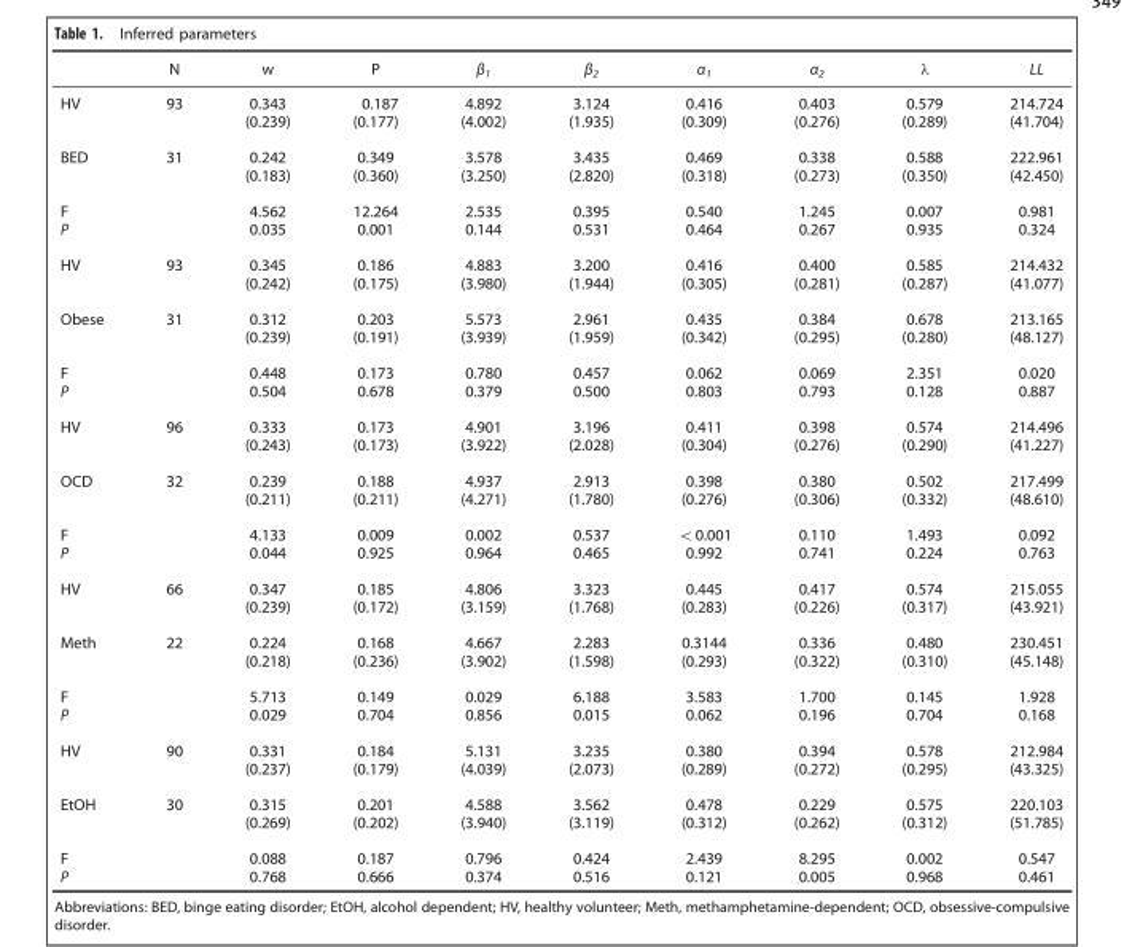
<table><thead><tr><td></td><td>N</td><td>w</td><td>P</td><td>β<sub>1</sub></td><td>β<sub>2</sub></td><td>α<sub>1</sub></td><td>α<sub>2</sub></td><td>λ</td><td>LL</td></tr></thead><tbody><tr><td>HV</td><td>93</td><td>0.343 (0.239)</td><td>0.187 (0.177)</td><td>4.892 (4.002)</td><td>3.124 (1.935)</td><td>0.416 (0.309)</td><td>0.403 (0.276)</td><td>0.579 (0.289)</td><td>214.724 (41.704)</td></tr><tr><td>BED</td><td>31</td><td>0.242 (0.183)</td><td>0.349 (0.360)</td><td>3.578 (3.250)</td><td>3.435 (2.820)</td><td>0.469 (0.318)</td><td>0.338 (0.273)</td><td>0.588 (0.350)</td><td>222.961 (42.450)</td></tr><tr><td>F P</td><td></td><td>4.562 0.035</td><td>12.264 0.001</td><td>2.535 0.144</td><td>0.395 0.531</td><td>0.540 0.464</td><td>1.245 0.267</td><td>0.007 0.935</td><td>0.981 0.324</td></tr><tr><td>HV</td><td>93</td><td>0.345 (0.242)</td><td>0.186 (0.175)</td><td>4.883 (3.980)</td><td>3.200 (1.944)</td><td>0.416 (0.305)</td><td>0.400 (0.281)</td><td>0.585 (0.287)</td><td>214.432 (41.077)</td></tr><tr><td>Obese</td><td>31</td><td>0.312 (0.239)</td><td>0.203 (0.191)</td><td>5.573 (3.939)</td><td>2.961 (1.959)</td><td>0.435 (0.342)</td><td>0.384 (0.295)</td><td>0.678 (0.280)</td><td>213.165 (48.127)</td></tr><tr><td>F P</td><td></td><td>0.448 0.504</td><td>0.173 0.678</td><td>0.780 0.379</td><td>0.457 0.500</td><td>0.062 0.803</td><td>0.069 0.793</td><td>2.351 0.128</td><td>0.020 0.887</td></tr><tr><td>HV</td><td>96</td><td>0.333 (0.243)</td><td>0.173 (0.173)</td><td>4.901 (3.922)</td><td>3.196 (2.028)</td><td>0.411 (0.304)</td><td>0.398 (0.276)</td><td>0.574 (0.290)</td><td>214.496 (41.227)</td></tr><tr><td>OCD</td><td>32</td><td>0.239 (0.211)</td><td>0.188 (0.211)</td><td>4.937 (4.271)</td><td>2.913 (1.780)</td><td>0.398 (0.276)</td><td>0.380 (0.306)</td><td>0.502 (0.332)</td><td>217.499 (48.610)</td></tr><tr><td>F P</td><td></td><td>4.133 0.044</td><td>0.009 0.925</td><td>0.002 0.964</td><td>0.537 0.465</td><td>&lt;0.001 0.992</td><td>0.110 0.741</td><td>1.493 0.224</td><td>0.092 0.763</td></tr><tr><td>HV</td><td>66</td><td>0.347 (0.239)</td><td>0.185 (0.172)</td><td>4.806 (3.159)</td><td>3.323 (1.768)</td><td>0.445 (0.283)</td><td>0.417 (0.226)</td><td>0.574 (0.317)</td><td>215.055 (43.921)</td></tr><tr><td>Meth</td><td>22</td><td>0.224 (0.218)</td><td>0.168 (0.236)</td><td>4.667 (3.902)</td><td>2.283 (1.598)</td><td>0.3144 (0.293)</td><td>0.336 (0.322)</td><td>0.480 (0.310)</td><td>230.451 (45.148)</td></tr><tr><td>F P</td><td></td><td>5.713 0.029</td><td>0.149 0.704</td><td>0.029 0.856</td><td>6.188 0.015</td><td>3.583 0.062</td><td>1.700 0.196</td><td>0.145 0.704</td><td>1.928 0.168</td></tr><tr><td>HV</td><td>90</td><td>0.331 (0.237)</td><td>0.184 (0.179)</td><td>5.131 (4.039)</td><td>3.235 (2.073)</td><td>0.380 (0.289)</td><td>0.394 (0.272)</td><td>0.578 (0.295)</td><td>212.984 (43.325)</td></tr><tr><td>EtOH</td><td>30</td><td>0.315 (0.269)</td><td>0.201 (0.202)</td><td>4.588 (3.940)</td><td>3.562 (3.119)</td><td>0.478 (0.312)</td><td>0.229 (0.262)</td><td>0.575 (0.312)</td><td>220.103 (51.785)</td></tr><tr><td>F P</td><td></td><td>0.088 0.768</td><td>0.187 0.666</td><td>0.796 0.374</td><td>0.424 0.516</td><td>2.439 0.121</td><td>8.295 0.005</td><td>0.002 0.968</td><td>0.547 0.461</td></tr></tbody></table>